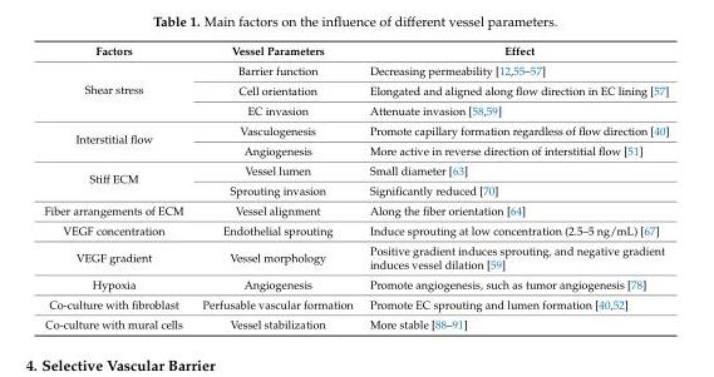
<table><thead><tr><td>Factors</td><td>Vessel Parameters</td><td>Effect</td></tr></thead><tbody><tr><td rowspan="3">Shear stress</td><td>Barrier function</td><td>Decreasing permeability [12,55–57]</td></tr><tr><td>Cell orientation</td><td>Elongated and aligned along flow direction in EC lining [57]</td></tr><tr><td>EC invasion</td><td>Attenuate invasion [58,59]</td></tr><tr><td rowspan="2">Interstitial flow</td><td>Vasculogenesis</td><td>Promote capillary formation regardless of flow direction [40]</td></tr><tr><td>Angiogenesis</td><td>More active in reverse direction of interstitial flow [51]</td></tr><tr><td rowspan="2">Stiff ECM</td><td>Vessel lumen</td><td>Small diameter [63]</td></tr><tr><td>Sprouting invasion</td><td>Significantly reduced [70]</td></tr><tr><td>Fiber arrangements of ECM</td><td>Vessel alignment</td><td>Along the fiber orientation [64]</td></tr><tr><td>VEGF concentration</td><td>Endothelial sprouting</td><td>Induce sprouting at low concentration (2.5–5 ng/mL) [67]</td></tr><tr><td>VEGF gradient</td><td>Vessel morphology</td><td>Positive gradient induces sprouting, and negative gradient induces vessel dilation [59]</td></tr><tr><td>Hypoxia</td><td>Angiogenesis</td><td>Promote angiogenesis, such as tumor angiogenesis [78]</td></tr><tr><td>Co-culture with fibroblast</td><td>Perfusable vascular formation</td><td>Promote EC sprouting and lumen formation [40,52]</td></tr><tr><td>Co-culture with mural cells</td><td>Vessel stabilization</td><td>More stable [88–91]</td></tr></tbody></table>